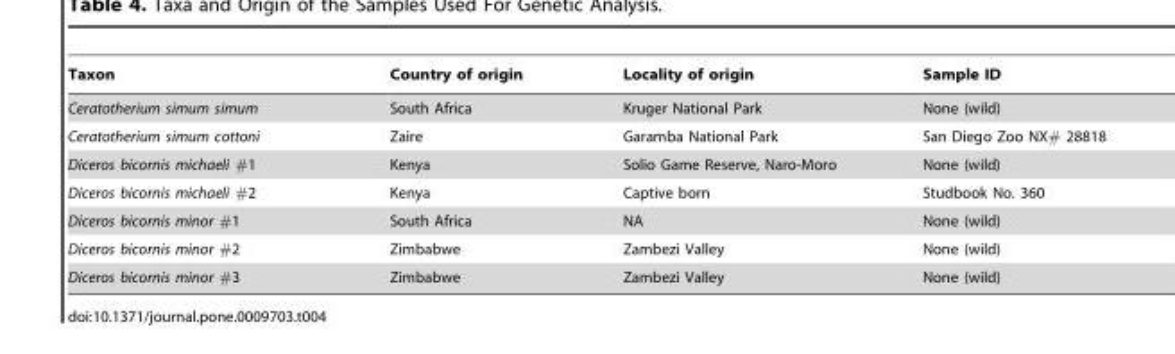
<table><thead><tr><td>Taxon</td><td>Country of origin</td><td>Locality of origin</td><td>Sample ID</td></tr></thead><tbody><tr><td>Ceratotherium simum simum</td><td>South Africa</td><td>Kruger National Park</td><td>None (wild)</td></tr><tr><td>Ceratotherium simum cottoni</td><td>Zaire</td><td>Garamba National Park</td><td>San Diego Zoo NX# 28818</td></tr><tr><td>Diceros bicornis michaeli #1</td><td>Kenya</td><td>Solio Game Reserve, Naro-Moro</td><td>None (wild)</td></tr><tr><td>Diceros bicornis michaeli #2</td><td>Kenya</td><td>Captive born</td><td>Studbook No. 360</td></tr><tr><td>Diceros bicornis minor #1</td><td>South Africa</td><td>NA</td><td>None (wild)</td></tr><tr><td>Diceros bicornis minor #2</td><td>Zimbabwe</td><td>Zambezi Valley</td><td>None (wild)</td></tr><tr><td>Diceros bicornis minor #3</td><td>Zimbabwe</td><td>Zambezi Valley</td><td>None (wild)</td></tr></tbody></table>